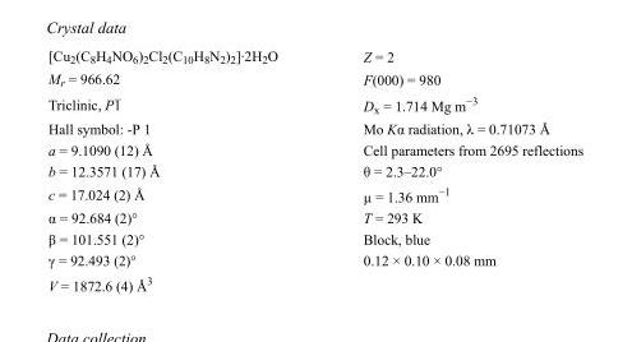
<table><tbody><tr><td>[Cu<sub>2</sub>(C<sub>8</sub>H<sub>4</sub>NO<sub>6</sub>)<sub>2</sub>Cl<sub>2</sub>(C<sub>10</sub>H<sub>8</sub>N<sub>2</sub>)<sub>2</sub>]·2H<sub>2</sub>O</td><td>Z = 2</td></tr><tr><td>M<sub>r</sub> = 966.62</td><td>F(000) = 980</td></tr><tr><td>Triclinic, P1</td><td>D<sub>x</sub> = 1.714 Mg m<sup>−3</sup></td></tr><tr><td>Hall symbol: -P 1</td><td>Mo Kα radiation, λ = 0.71073 Å</td></tr><tr><td>a = 9.1090 (12) Å</td><td>Cell parameters from 2695 reflections</td></tr><tr><td>b = 12.3571 (17) Å</td><td>θ = 2.3–22.0°</td></tr><tr><td>c = 17.024 (2) Å</td><td>µ = 1.36 mm<sup>−1</sup></td></tr><tr><td>α = 92.684 (2)°</td><td>T = 293 K</td></tr><tr><td>β = 101.551 (2)°</td><td>Block, blue</td></tr><tr><td>γ = 92.493 (2)°</td><td>0.12 × 0.10 × 0.08 mm</td></tr><tr><td>V = 1872.6 (4) Å<sup>3</sup></td><td></td></tr></tbody></table>